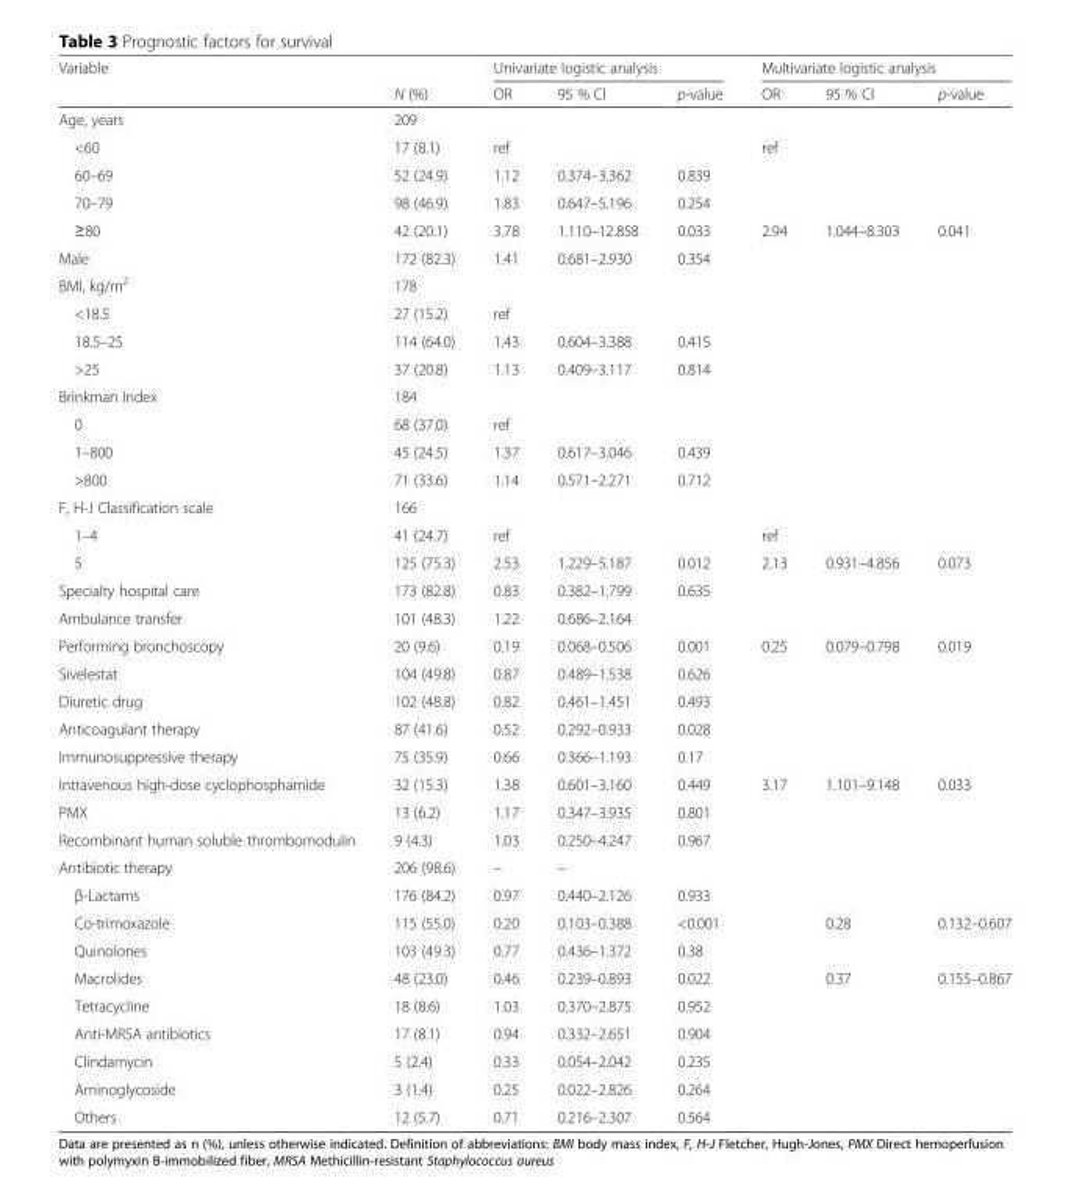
<table><thead><tr><td rowspan="2">Variable</td><td rowspan="2">N (%)</td><td colspan="3">Univariate logistic analysis</td><td colspan="3">Multivariate logistic analysis</td></tr><tr><td>OR</td><td>95 % Cl</td><td>p-value</td><td>OR</td><td>95 % Cl</td><td>p-value</td></tr></thead><tbody><tr><td>Age, years</td><td>209</td><td></td><td></td><td></td><td></td><td></td><td></td></tr><tr><td>&lt;60</td><td>17 (8.1)</td><td>ref</td><td></td><td></td><td>ref</td><td></td><td></td></tr><tr><td>60–69</td><td>52 (24.9)</td><td>1.12</td><td>0.374–3.362</td><td>0.839</td><td></td><td></td><td></td></tr><tr><td>70–79</td><td>98 (46.9)</td><td>1.83</td><td>0.647–5.196</td><td>0.254</td><td></td><td></td><td></td></tr><tr><td>≥80</td><td>42 (20.1)</td><td>3.78</td><td>1.110–12.858</td><td>0.033</td><td>2.94</td><td>1.044–8.303</td><td>0.041</td></tr><tr><td>Male</td><td>172 (82.3)</td><td>1.41</td><td>0.681–2.930</td><td>0.354</td><td></td><td></td><td></td></tr><tr><td>BMI, kg/m<sup>2</sup></td><td>178</td><td></td><td></td><td></td><td></td><td></td><td></td></tr><tr><td>&lt;18.5</td><td>27 (15.2)</td><td>ref</td><td></td><td></td><td></td><td></td><td></td></tr><tr><td>18.5–25</td><td>114 (64.0)</td><td>1.43</td><td>0.604–3.388</td><td>0.415</td><td></td><td></td><td></td></tr><tr><td>&gt;25</td><td>37 (20.8)</td><td>1.13</td><td>0.409–3.117</td><td>0.814</td><td></td><td></td><td></td></tr><tr><td>Brinkman Index</td><td>184</td><td></td><td></td><td></td><td></td><td></td><td></td></tr><tr><td>0</td><td>68 (37.0)</td><td>ref</td><td></td><td></td><td></td><td></td><td></td></tr><tr><td>1–800</td><td>45 (24.5)</td><td>1.37</td><td>0.617–3.046</td><td>0.439</td><td></td><td></td><td></td></tr><tr><td>&gt;800</td><td>71 (33.6)</td><td>1.14</td><td>0.571–2.271</td><td>0.712</td><td></td><td></td><td></td></tr><tr><td>F, H-J Classification scale</td><td>166</td><td></td><td></td><td></td><td></td><td></td><td></td></tr><tr><td>1–4</td><td>41 (24.7)</td><td>ref</td><td></td><td></td><td>ref</td><td></td><td></td></tr><tr><td>5</td><td>125 (75.3)</td><td>2.53</td><td>1.229–5.187</td><td>0.012</td><td>2.13</td><td>0.931–4.856</td><td>0.073</td></tr><tr><td>Specialty hospital care</td><td>173 (82.8)</td><td>0.83</td><td>0.382–1.799</td><td>0.635</td><td></td><td></td><td></td></tr><tr><td>Ambulance transfer</td><td>101 (48.3)</td><td>1.22</td><td>0.686–2.164</td><td></td><td></td><td></td><td></td></tr><tr><td>Performing bronchoscopy</td><td>20 (9.6)</td><td>0.19</td><td>0.068–0.506</td><td>0.001</td><td>0.25</td><td>0.079–0.798</td><td>0.019</td></tr><tr><td>Sivelestat</td><td>104 (49.8)</td><td>0.87</td><td>0.489–1.538</td><td>0.626</td><td></td><td></td><td></td></tr><tr><td>Diuretic drug</td><td>102 (48.8)</td><td>0.82</td><td>0.461–1.451</td><td>0.493</td><td></td><td></td><td></td></tr><tr><td>Anticoagulant therapy</td><td>87 (41.6)</td><td>0.52</td><td>0.292–0.933</td><td>0.028</td><td></td><td></td><td></td></tr><tr><td>Immunosuppressive therapy</td><td>75 (35.9)</td><td>0.66</td><td>0.366–1.193</td><td>0.17</td><td></td><td></td><td></td></tr><tr><td>Intravenous high-dose cyclophosphamide</td><td>32 (15.3)</td><td>1.38</td><td>0.601–3.160</td><td>0.449</td><td>3.17</td><td>1.101–9.148</td><td>0.033</td></tr><tr><td>PMX</td><td>13 (6.2)</td><td>1.17</td><td>0.347–3.935</td><td>0.801</td><td></td><td></td><td></td></tr><tr><td>Recombinant human soluble thrombomodulin</td><td>9 (4.3)</td><td>1.03</td><td>0.250–4.247</td><td>0.967</td><td></td><td></td><td></td></tr><tr><td>Antibiotic therapy</td><td>206 (98.6)</td><td>–</td><td>–</td><td></td><td></td><td></td><td></td></tr><tr><td>β-Lactams</td><td>176 (84.2)</td><td>0.97</td><td>0.440–2.126</td><td>0.933</td><td></td><td></td><td></td></tr><tr><td>Co-trimoxazole</td><td>115 (55.0)</td><td>0.20</td><td>0.103–0.388</td><td>&lt;0.001</td><td></td><td>0.28</td><td>0.132–0.607</td></tr><tr><td>Quinolones</td><td>103 (49.3)</td><td>0.77</td><td>0.436–1.372</td><td>0.38</td><td></td><td></td><td></td></tr><tr><td>Macrolides</td><td>48 (23.0)</td><td>0.46</td><td>0.239–0.893</td><td>0.022</td><td></td><td>0.37</td><td>0.155–0.867</td></tr><tr><td>Tetracycline</td><td>18 (8.6)</td><td>1.03</td><td>0.370–2.875</td><td>0.952</td><td></td><td></td><td></td></tr><tr><td>Anti-MRSA antibiotics</td><td>17 (8.1)</td><td>0.94</td><td>0.332–2.651</td><td>0.904</td><td></td><td></td><td></td></tr><tr><td>Clindamycin</td><td>5 (2.4)</td><td>0.33</td><td>0.054–2.042</td><td>0.235</td><td></td><td></td><td></td></tr><tr><td>Aminoglycoside</td><td>3 (1.4)</td><td>0.25</td><td>0.022–2.826</td><td>0.264</td><td></td><td></td><td></td></tr><tr><td>Others</td><td>12 (5.7)</td><td>0.71</td><td>0.216–2.307</td><td>0.564</td><td></td><td></td><td></td></tr></tbody></table>